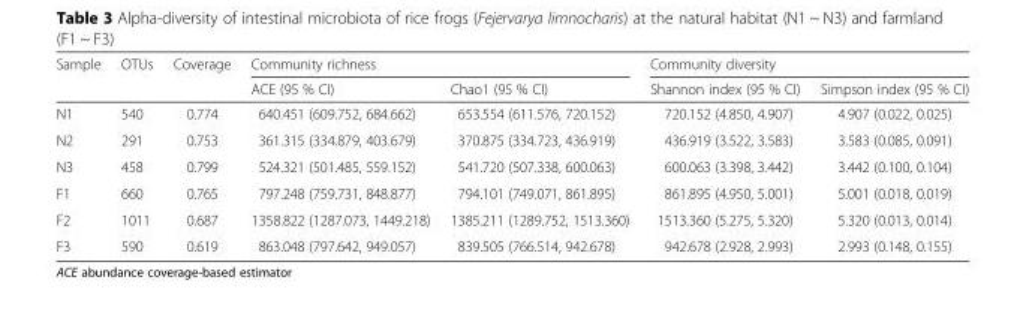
<table><thead><tr><td rowspan="2">Sample</td><td rowspan="2">OTUs</td><td rowspan="2">Coverage</td><td colspan="2">Community richness</td><td colspan="2">Community diversity</td></tr><tr><td>ACE (95 % CI)</td><td>Chao1 (95 % CI)</td><td>Shannon index (95 % CI)</td><td>Simpson index (95 % CI)</td></tr></thead><tbody><tr><td>N1</td><td>540</td><td>0.774</td><td>640.451 (609.752, 684.662)</td><td>653.554 (611.576, 720.152)</td><td>720.152 (4.850, 4.907)</td><td>4.907 (0.022, 0.025)</td></tr><tr><td>N2</td><td>291</td><td>0.753</td><td>361.315 (334.879, 403.679)</td><td>370.875 (334.723, 436.919)</td><td>436.919 (3.522, 3.583)</td><td>3.583 (0.085, 0.091)</td></tr><tr><td>N3</td><td>458</td><td>0.799</td><td>524.321 (501.485, 559.152)</td><td>541.720 (507.338, 600.063)</td><td>600.063 (3.398, 3.442)</td><td>3.442 (0.100, 0.104)</td></tr><tr><td>F1</td><td>660</td><td>0.765</td><td>797.248 (759.731, 848.877)</td><td>794.101 (749.071, 861.895)</td><td>861.895 (4.950, 5.001)</td><td>5.001 (0.018, 0.019)</td></tr><tr><td>F2</td><td>1011</td><td>0.687</td><td>1358.822 (1287.073, 1449.218)</td><td>1385.211 (1289.752, 1513.360)</td><td>1513.360 (5.275, 5.320)</td><td>5.320 (0.013, 0.014)</td></tr><tr><td>F3</td><td>590</td><td>0.619</td><td>863.048 (797.642, 949.057)</td><td>839.505 (766.514, 942.678)</td><td>942.678 (2.928, 2.993)</td><td>2.993 (0.148, 0.155)</td></tr></tbody></table>